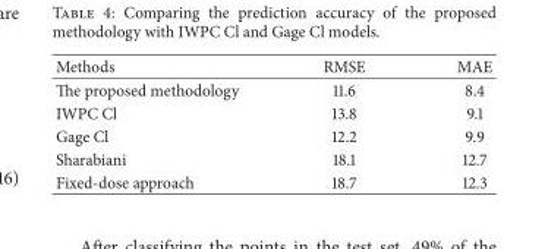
<table><thead><tr><td>Methods</td><td>RMSE</td><td>MAE</td></tr></thead><tbody><tr><td>The proposed methodology</td><td>11.6</td><td>8.4</td></tr><tr><td>IWPC Cl</td><td>13.8</td><td>9.1</td></tr><tr><td>Gage Cl</td><td>12.2</td><td>9.9</td></tr><tr><td>Sharabiani</td><td>18.1</td><td>12.7</td></tr><tr><td>Fixed-dose approach</td><td>18.7</td><td>12.3</td></tr></tbody></table>